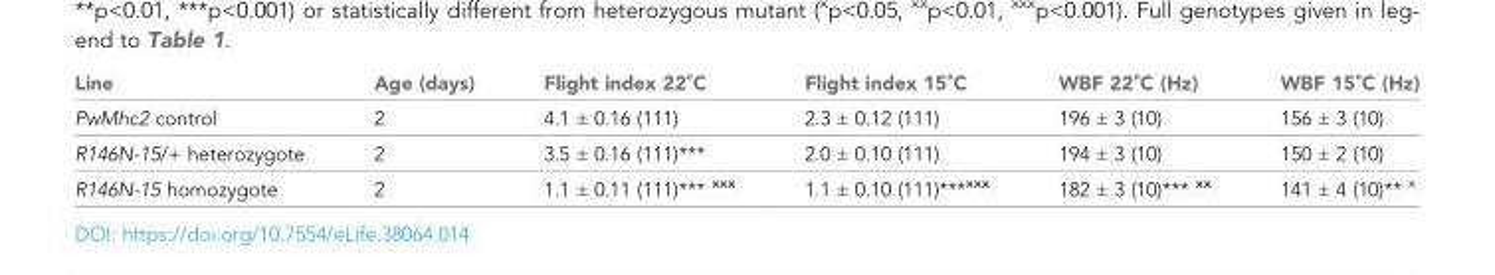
<table><thead><tr><td>Line</td><td>Age (days)</td><td>Flight index 22˚C</td><td>Flight index 15˚C</td><td>WBF 22˚C (Hz)</td><td>WBF 15˚C (Hz)</td></tr></thead><tbody><tr><td>PwMhc2 control</td><td>2</td><td>4.1 ± 0.16 (111)</td><td>2.3 ± 0.12 (111)</td><td>196 ± 3 (10)</td><td>156 ± 3 (10)</td></tr><tr><td>R146N-15/+ heterozygote</td><td>2</td><td>3.5 ± 0.16 (111)***</td><td>2.0 ± 0.10 (111)</td><td>194 ± 3 (10)</td><td>150 ± 2 (10)</td></tr><tr><td>R146N-15 homozygote</td><td>2</td><td>1.1 ± 0.11 (111)*** <sup>xxx</sup></td><td>1.1 ± 0.10 (111)***<sup>xxx</sup></td><td>182 ± 3 (10)*** <sup>xx</sup></td><td>141 ± 4 (10)** <sup>x</sup></td></tr></tbody></table>